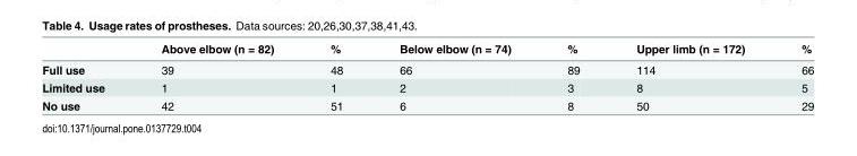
<table><thead><tr><td></td><td>Above elbow (n = 82)</td><td>%</td><td>Below elbow (n = 74)</td><td>%</td><td>Upper limb (n = 172)</td><td>%</td></tr></thead><tbody><tr><td>Full use</td><td>39</td><td>48</td><td>66</td><td>89</td><td>114</td><td>66</td></tr><tr><td>Limited use</td><td>1</td><td>1</td><td>2</td><td>3</td><td>8</td><td>5</td></tr><tr><td>No use</td><td>42</td><td>51</td><td>6</td><td>8</td><td>50</td><td>29</td></tr></tbody></table>